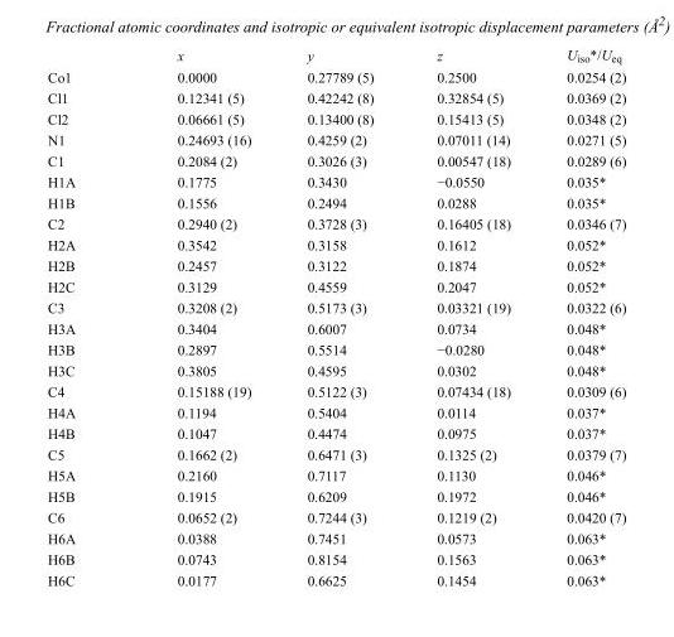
<table><thead><tr><td></td><td>x</td><td>y</td><td>z</td><td>U<sub>iso</sub>*/U<sub>eq</sub></td></tr></thead><tbody><tr><td>Co1</td><td>0.0000</td><td>0.27789 (5)</td><td>0.2500</td><td>0.0254 (2)</td></tr><tr><td>Cl1</td><td>0.12341 (5)</td><td>0.42242 (8)</td><td>0.32854 (5)</td><td>0.0369 (2)</td></tr><tr><td>Cl2</td><td>0.06661 (5)</td><td>0.13400 (8)</td><td>0.15413 (5)</td><td>0.0348 (2)</td></tr><tr><td>N1</td><td>0.24693 (16)</td><td>0.4259 (2)</td><td>0.07011 (14)</td><td>0.0271 (5)</td></tr><tr><td>C1</td><td>0.2084 (2)</td><td>0.3026 (3)</td><td>0.00547 (18)</td><td>0.0289 (6)</td></tr><tr><td>H1A</td><td>0.1775</td><td>0.3430</td><td>−0.0550</td><td>0.035*</td></tr><tr><td>H1B</td><td>0.1556</td><td>0.2494</td><td>0.0288</td><td>0.035*</td></tr><tr><td>C2</td><td>0.2940 (2)</td><td>0.3728 (3)</td><td>0.16405 (18)</td><td>0.0346 (7)</td></tr><tr><td>H2A</td><td>0.3542</td><td>0.3158</td><td>0.1612</td><td>0.052*</td></tr><tr><td>H2B</td><td>0.2457</td><td>0.3122</td><td>0.1874</td><td>0.052*</td></tr><tr><td>H2C</td><td>0.3129</td><td>0.4559</td><td>0.2047</td><td>0.052*</td></tr><tr><td>C3</td><td>0.3208 (2)</td><td>0.5173 (3)</td><td>0.03321 (19)</td><td>0.0322 (6)</td></tr><tr><td>H3A</td><td>0.3404</td><td>0.6007</td><td>0.0734</td><td>0.048*</td></tr><tr><td>H3B</td><td>0.2897</td><td>0.5514</td><td>−0.0280</td><td>0.048*</td></tr><tr><td>H3C</td><td>0.3805</td><td>0.4595</td><td>0.0302</td><td>0.048*</td></tr><tr><td>C4</td><td>0.15188 (19)</td><td>0.5122 (3)</td><td>0.07434 (18)</td><td>0.0309 (6)</td></tr><tr><td>H4A</td><td>0.1194</td><td>0.5404</td><td>0.0114</td><td>0.037*</td></tr><tr><td>H4B</td><td>0.1047</td><td>0.4474</td><td>0.0975</td><td>0.037*</td></tr><tr><td>C5</td><td>0.1662 (2)</td><td>0.6471 (3)</td><td>0.1325 (2)</td><td>0.0379 (7)</td></tr><tr><td>H5A</td><td>0.2160</td><td>0.7117</td><td>0.1130</td><td>0.046*</td></tr><tr><td>H5B</td><td>0.1915</td><td>0.6209</td><td>0.1972</td><td>0.046*</td></tr><tr><td>C6</td><td>0.0652 (2)</td><td>0.7244 (3)</td><td>0.1219 (2)</td><td>0.0420 (7)</td></tr><tr><td>H6A</td><td>0.0388</td><td>0.7451</td><td>0.0573</td><td>0.063*</td></tr><tr><td>H6B</td><td>0.0743</td><td>0.8154</td><td>0.1563</td><td>0.063*</td></tr><tr><td>H6C</td><td>0.0177</td><td>0.6625</td><td>0.1454</td><td>0.063*</td></tr></tbody></table>